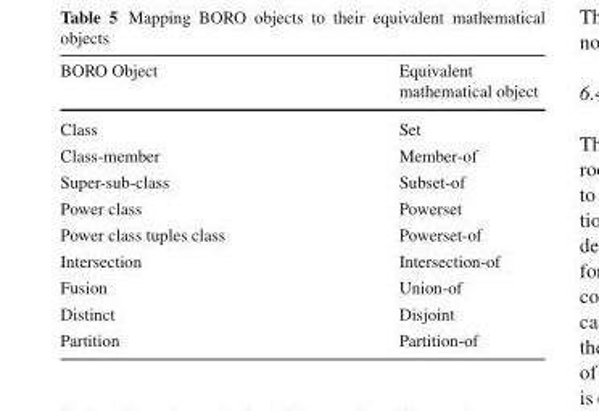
<table><thead><tr><td>BORO Object</td><td>Equivalent mathematical object</td></tr></thead><tbody><tr><td>Class</td><td>Set</td></tr><tr><td>Class-member</td><td>Member-of</td></tr><tr><td>Super-sub-class</td><td>Subset-of</td></tr><tr><td>Power class</td><td>Powerset</td></tr><tr><td>Power class tuples class</td><td>Powerset-of</td></tr><tr><td>Intersection</td><td>Intersection-of</td></tr><tr><td>Fusion</td><td>Union-of</td></tr><tr><td>Distinct</td><td>Disjoint</td></tr><tr><td>Partition</td><td>Partition-of</td></tr></tbody></table>